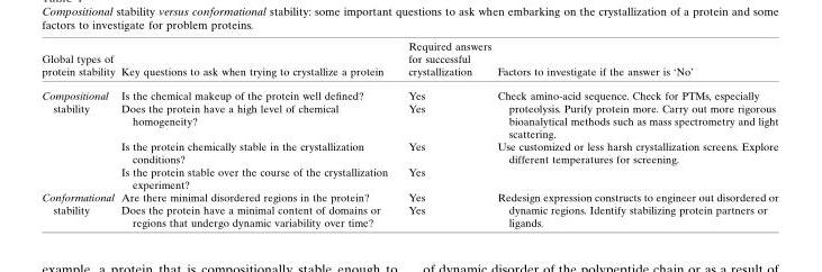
<table><thead><tr><td>Global types of protein stability</td><td>Key questions to ask when trying to crystallize a protein</td><td>Required answers for successful crystallization</td><td>Factors to investigate if the answer is ‘No’</td></tr></thead><tbody><tr><td rowspan="4">Compositional stability</td><td>Is the chemical makeup of the protein well defined?</td><td>Yes</td><td rowspan="2">Check amino-acid sequence. Check for PTMs, especially proteolysis. Purify protein more. Carry out more rigorous bioanalytical methods such as mass spectrometry and light scattering.</td></tr><tr><td>Does the protein have a high level of chemical homogeneity?</td><td>Yes</td></tr><tr><td>Is the protein chemically stable in the crystallization conditions?</td><td>Yes</td><td rowspan="2">Use customized or less harsh crystallization screens. Explore different temperatures for screening.</td></tr><tr><td>Is the protein stable over the course of the crystallization experiment?</td><td>Yes</td></tr><tr><td rowspan="2">Conformational stability</td><td>Are there minimal disordered regions in the protein?</td><td>Yes</td><td rowspan="2">Redesign expression constructs to engineer out disordered or dynamic regions. Identify stabilizing protein partners or ligands.</td></tr><tr><td>Does the protein have a minimal content of domains or regions that undergo dynamic variability over time?</td><td>Yes</td></tr></tbody></table>